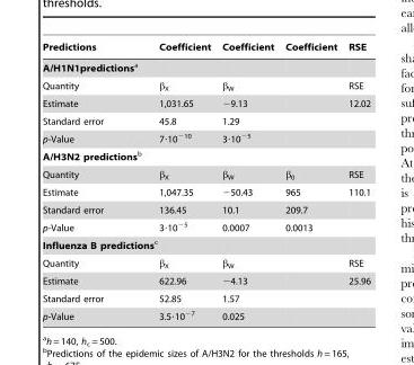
<table><thead><tr><td>Predictions</td><td>Coefficient</td><td>Coefficient</td><td>Coefficient</td><td>RSE</td></tr></thead><tbody><tr><td colspan="5">A/H1N1predictionsa</td></tr><tr><td>Quantity</td><td>β<sub>X</sub></td><td>β<sub>W</sub></td><td></td><td>RSE</td></tr><tr><td>Estimate</td><td>1,031.65</td><td>−9.13</td><td></td><td>12.02</td></tr><tr><td>Standard error</td><td>45.8</td><td>1.29</td><td></td><td></td></tr><tr><td>p-Value</td><td>7·10<sup>−10</sup></td><td>3·10<sup>−5</sup></td><td></td><td></td></tr><tr><td colspan="5">A/H3N2 predictionsb</td></tr><tr><td>Quantity</td><td>β<sub>X</sub></td><td>β<sub>W</sub></td><td>β<sub>0</sub></td><td>RSE</td></tr><tr><td>Estimate</td><td>1,047.35</td><td>−50.43</td><td>965</td><td>110.1</td></tr><tr><td>Standard error</td><td>136.45</td><td>10.1</td><td>209.7</td><td></td></tr><tr><td>p-Value</td><td>3·10<sup>−5</sup></td><td>0.0007</td><td>0.0013</td><td></td></tr><tr><td colspan="5">Influenza B predictionsc</td></tr><tr><td>Quantity</td><td>β<sub>X</sub></td><td>β<sub>W</sub></td><td></td><td>RSE</td></tr><tr><td>Estimate</td><td>622.96</td><td>−4.13</td><td></td><td>25.96</td></tr><tr><td>Standard error</td><td>52.85</td><td>1.57</td><td></td><td></td></tr><tr><td>p-Value</td><td>3.5·10<sup>−7</sup></td><td>0.025</td><td></td><td></td></tr></tbody></table>